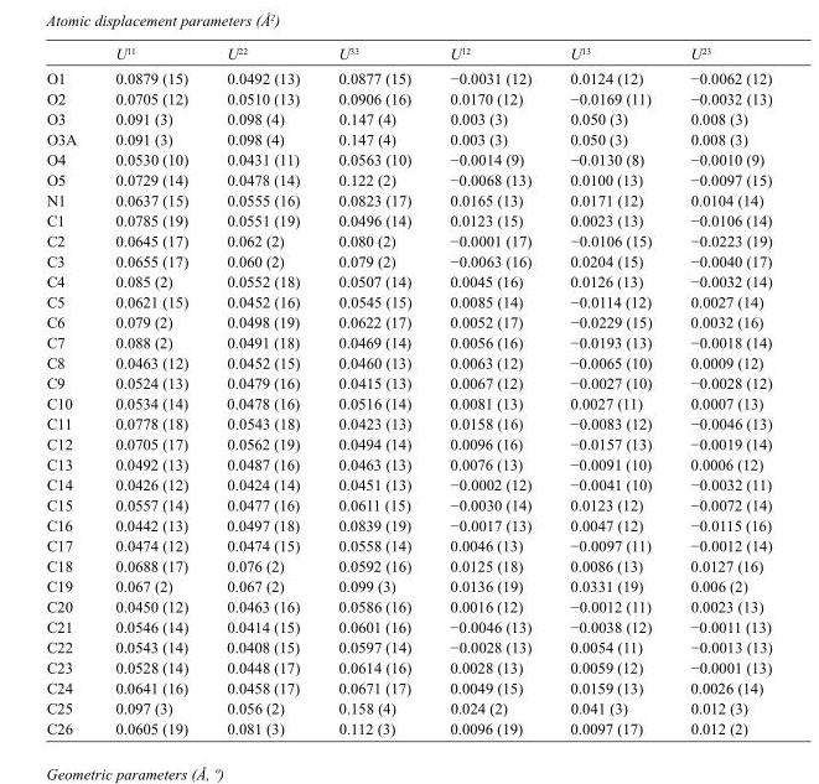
<table><thead><tr><td></td><td>U<sup>11</sup></td><td>U<sup>22</sup></td><td>U<sup>33</sup></td><td>U<sup>12</sup></td><td>U<sup>13</sup></td><td>U<sup>23</sup></td></tr></thead><tbody><tr><td>O1</td><td>0.0879 (15)</td><td>0.0492 (13)</td><td>0.0877 (15)</td><td>−0.0031 (12)</td><td>0.0124 (12)</td><td>−0.0062 (12)</td></tr><tr><td>O2</td><td>0.0705 (12)</td><td>0.0510 (13)</td><td>0.0906 (16)</td><td>0.0170 (12)</td><td>−0.0169 (11)</td><td>−0.0032 (13)</td></tr><tr><td>O3</td><td>0.091 (3)</td><td>0.098 (4)</td><td>0.147 (4)</td><td>0.003 (3)</td><td>0.050 (3)</td><td>0.008 (3)</td></tr><tr><td>O3A</td><td>0.091 (3)</td><td>0.098 (4)</td><td>0.147 (4)</td><td>0.003 (3)</td><td>0.050 (3)</td><td>0.008 (3)</td></tr><tr><td>O4</td><td>0.0530 (10)</td><td>0.0431 (11)</td><td>0.0563 (10)</td><td>−0.0014 (9)</td><td>−0.0130 (8)</td><td>−0.0010 (9)</td></tr><tr><td>O5</td><td>0.0729 (14)</td><td>0.0478 (14)</td><td>0.122 (2)</td><td>−0.0068 (13)</td><td>0.0100 (13)</td><td>−0.0097 (15)</td></tr><tr><td>N1</td><td>0.0637 (15)</td><td>0.0555 (16)</td><td>0.0823 (17)</td><td>0.0165 (13)</td><td>0.0171 (12)</td><td>0.0104 (14)</td></tr><tr><td>C1</td><td>0.0785 (19)</td><td>0.0551 (19)</td><td>0.0496 (14)</td><td>0.0123 (15)</td><td>0.0023 (13)</td><td>−0.0106 (14)</td></tr><tr><td>C2</td><td>0.0645 (17)</td><td>0.062 (2)</td><td>0.080 (2)</td><td>−0.0001 (17)</td><td>−0.0106 (15)</td><td>−0.0223 (19)</td></tr><tr><td>C3</td><td>0.0655 (17)</td><td>0.060 (2)</td><td>0.079 (2)</td><td>−0.0063 (16)</td><td>0.0204 (15)</td><td>−0.0040 (17)</td></tr><tr><td>C4</td><td>0.085 (2)</td><td>0.0552 (18)</td><td>0.0507 (14)</td><td>0.0045 (16)</td><td>0.0126 (13)</td><td>−0.0032 (14)</td></tr><tr><td>C5</td><td>0.0621 (15)</td><td>0.0452 (16)</td><td>0.0545 (15)</td><td>0.0085 (14)</td><td>−0.0114 (12)</td><td>0.0027 (14)</td></tr><tr><td>C6</td><td>0.079 (2)</td><td>0.0498 (19)</td><td>0.0622 (17)</td><td>0.0052 (17)</td><td>−0.0229 (15)</td><td>0.0032 (16)</td></tr><tr><td>C7</td><td>0.088 (2)</td><td>0.0491 (18)</td><td>0.0469 (14)</td><td>0.0056 (16)</td><td>−0.0193 (13)</td><td>−0.0018 (14)</td></tr><tr><td>C8</td><td>0.0463 (12)</td><td>0.0452 (15)</td><td>0.0460 (13)</td><td>0.0063 (12)</td><td>−0.0065 (10)</td><td>0.0009 (12)</td></tr><tr><td>C9</td><td>0.0524 (13)</td><td>0.0479 (16)</td><td>0.0415 (13)</td><td>0.0067 (12)</td><td>−0.0027 (10)</td><td>−0.0028 (12)</td></tr><tr><td>C10</td><td>0.0534 (14)</td><td>0.0478 (16)</td><td>0.0516 (14)</td><td>0.0081 (13)</td><td>0.0027 (11)</td><td>0.0007 (13)</td></tr><tr><td>C11</td><td>0.0778 (18)</td><td>0.0543 (18)</td><td>0.0423 (13)</td><td>0.0158 (16)</td><td>−0.0083 (12)</td><td>−0.0046 (13)</td></tr><tr><td>C12</td><td>0.0705 (17)</td><td>0.0562 (19)</td><td>0.0494 (14)</td><td>0.0096 (16)</td><td>−0.0157 (13)</td><td>−0.0019 (14)</td></tr><tr><td>C13</td><td>0.0492 (13)</td><td>0.0487 (16)</td><td>0.0463 (13)</td><td>0.0076 (13)</td><td>−0.0091 (10)</td><td>0.0006 (12)</td></tr><tr><td>C14</td><td>0.0426 (12)</td><td>0.0424 (14)</td><td>0.0451 (13)</td><td>−0.0002 (12)</td><td>−0.0041 (10)</td><td>−0.0032 (11)</td></tr><tr><td>C15</td><td>0.0557 (14)</td><td>0.0477 (16)</td><td>0.0611 (15)</td><td>−0.0030 (14)</td><td>0.0123 (12)</td><td>−0.0072 (14)</td></tr><tr><td>C16</td><td>0.0442 (13)</td><td>0.0497 (18)</td><td>0.0839 (19)</td><td>−0.0017 (13)</td><td>0.0047 (12)</td><td>−0.0115 (16)</td></tr><tr><td>C17</td><td>0.0474 (12)</td><td>0.0474 (15)</td><td>0.0558 (14)</td><td>0.0046 (13)</td><td>−0.0097 (11)</td><td>−0.0012 (14)</td></tr><tr><td>C18</td><td>0.0688 (17)</td><td>0.076 (2)</td><td>0.0592 (16)</td><td>0.0125 (18)</td><td>0.0086 (13)</td><td>0.0127 (16)</td></tr><tr><td>C19</td><td>0.067 (2)</td><td>0.067 (2)</td><td>0.099 (3)</td><td>0.0136 (19)</td><td>0.0331 (19)</td><td>0.006 (2)</td></tr><tr><td>C20</td><td>0.0450 (12)</td><td>0.0463 (16)</td><td>0.0586 (16)</td><td>0.0016 (12)</td><td>−0.0012 (11)</td><td>0.0023 (13)</td></tr><tr><td>C21</td><td>0.0546 (14)</td><td>0.0414 (15)</td><td>0.0601 (16)</td><td>−0.0046 (13)</td><td>−0.0038 (12)</td><td>−0.0011 (13)</td></tr><tr><td>C22</td><td>0.0543 (14)</td><td>0.0408 (15)</td><td>0.0597 (14)</td><td>−0.0028 (13)</td><td>0.0054 (11)</td><td>−0.0013 (13)</td></tr><tr><td>C23</td><td>0.0528 (14)</td><td>0.0448 (17)</td><td>0.0614 (16)</td><td>0.0028 (13)</td><td>0.0059 (12)</td><td>−0.0001 (13)</td></tr><tr><td>C24</td><td>0.0641 (16)</td><td>0.0458 (17)</td><td>0.0671 (17)</td><td>0.0049 (15)</td><td>0.0159 (13)</td><td>0.0026 (14)</td></tr><tr><td>C25</td><td>0.097 (3)</td><td>0.056 (2)</td><td>0.158 (4)</td><td>0.024 (2)</td><td>0.041 (3)</td><td>0.012 (3)</td></tr><tr><td>C26</td><td>0.0605 (19)</td><td>0.081 (3)</td><td>0.112 (3)</td><td>0.0096 (19)</td><td>0.0097 (17)</td><td>0.012 (2)</td></tr></tbody></table>